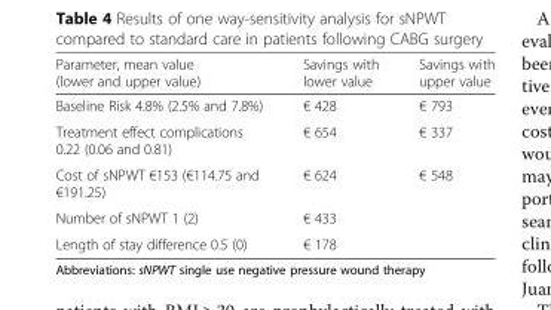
<table><thead><tr><td>Parameter, mean value (lower and upper value)</td><td>Savings with lower value</td><td>Savings with upper value</td></tr></thead><tbody><tr><td>Baseline Risk 4.8% (2.5% and 7.8%)</td><td>€ 428</td><td>€ 793</td></tr><tr><td>Treatment effect complications 0.22 (0.06 and 0.81)</td><td>€ 654</td><td>€ 337</td></tr><tr><td>Cost of sNPWT €153 (€114.75 and €191.25)</td><td>€ 624</td><td>€ 548</td></tr><tr><td>Number of sNPWT 1 (2)</td><td colspan="2">€ 433</td></tr><tr><td>Length of stay difference 0.5 (0)</td><td colspan="2">€ 178</td></tr></tbody></table>